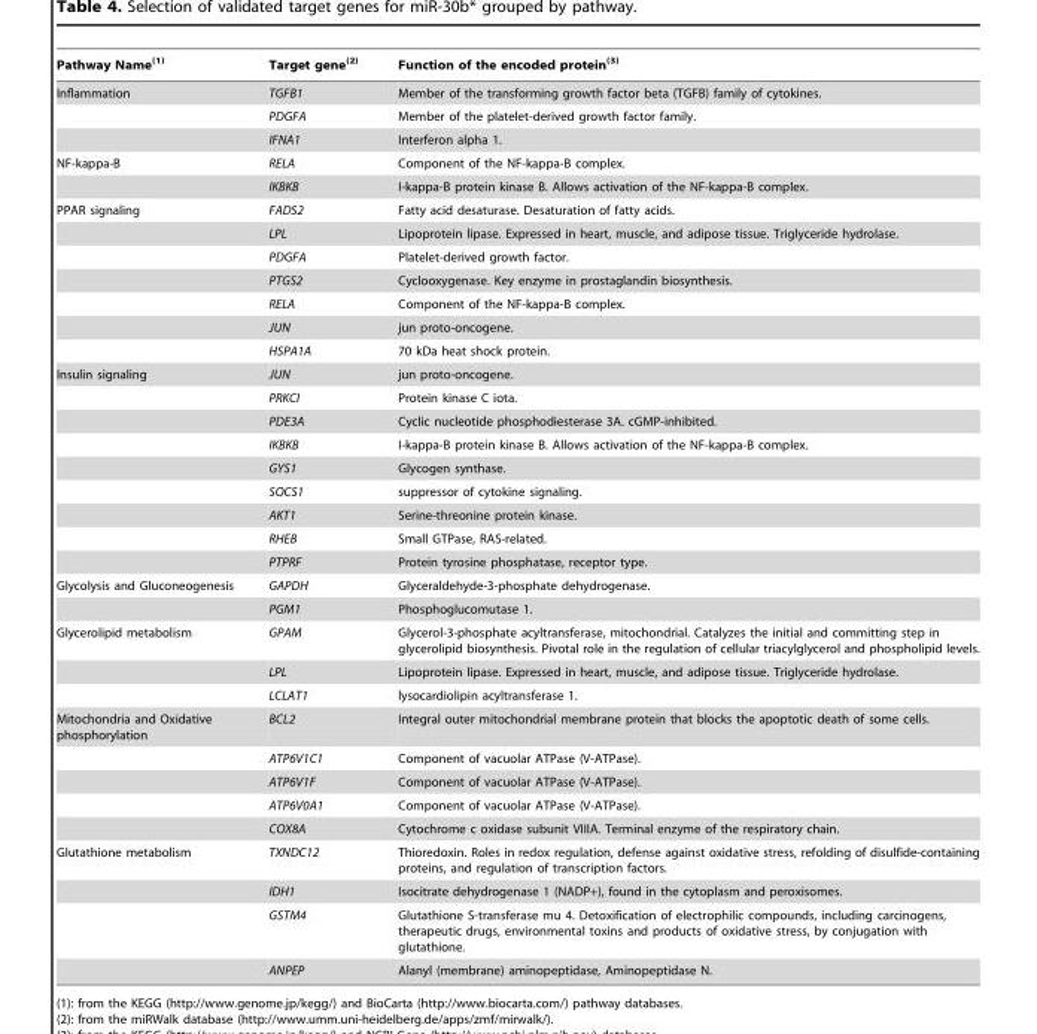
<table><thead><tr><td>Pathway Name(1)</td><td>Target gene(2)</td><td>Function of the encoded protein(3)</td></tr></thead><tbody><tr><td rowspan="3">Inflammation</td><td>TGFB1</td><td>Member of the transforming growth factor beta (TGFB) family of cytokines.</td></tr><tr><td>PDGFA</td><td>Member of the platelet-derived growth factor family.</td></tr><tr><td>IFNA1</td><td>Interferon alpha 1.</td></tr><tr><td rowspan="2">NF-kappa-B</td><td>RELA</td><td>Component of the NF-kappa-B complex.</td></tr><tr><td>IKBKB</td><td>I-kappa-B protein kinase B. Allows activation of the NF-kappa-B complex.</td></tr><tr><td rowspan="7">PPAR signaling</td><td>FADS2</td><td>Fatty acid desaturase. Desaturation of fatty acids.</td></tr><tr><td>LPL</td><td>Lipoprotein lipase. Expressed in heart, muscle, and adipose tissue. Triglyceride hydrolase.</td></tr><tr><td>PDGFA</td><td>Platelet-derived growth factor.</td></tr><tr><td>PTGS2</td><td>Cyclooxygenase. Key enzyme in prostaglandin biosynthesis.</td></tr><tr><td>RELA</td><td>Component of the NF-kappa-B complex.</td></tr><tr><td>JUN</td><td>jun proto-oncogene.</td></tr><tr><td>HSPA1A</td><td>70 kDa heat shock protein.</td></tr><tr><td rowspan="9">Insulin signaling</td><td>JUN</td><td>jun proto-oncogene.</td></tr><tr><td>PRKCI</td><td>Protein kinase C iota.</td></tr><tr><td>PDE3A</td><td>Cyclic nucleotide phosphodiesterase 3A. cGMP-inhibited.</td></tr><tr><td>IKBKB</td><td>I-kappa-B protein kinase B. Allows activation of the NF-kappa-B complex.</td></tr><tr><td>GYS1</td><td>Glycogen synthase.</td></tr><tr><td>SOCS1</td><td>suppressor of cytokine signaling.</td></tr><tr><td>AKT1</td><td>Serine-threonine protein kinase.</td></tr><tr><td>RHEB</td><td>Small GTPase, RAS-related.</td></tr><tr><td>PTPRF</td><td>Protein tyrosine phosphatase, receptor type.</td></tr><tr><td rowspan="2">Glycolysis and Gluconeogenesis</td><td>GAPDH</td><td>Glyceraldehyde-3-phosphate dehydrogenase.</td></tr><tr><td>PGM1</td><td>Phosphoglucomutase 1.</td></tr><tr><td rowspan="3">Glycerolipid metabolism</td><td>GPAM</td><td>Glycerol-3-phosphate acyltransferase, mitochondrial. Catalyzes the initial and committing step in glycerolipid biosynthesis. Pivotal role in the regulation of cellular triacylglycerol and phospholipid levels.</td></tr><tr><td>LPL</td><td>Lipoprotein lipase. Expressed in heart, muscle, and adipose tissue. Triglyceride hydrolase.</td></tr><tr><td>LCLAT1</td><td>lysocardiolipin acyltransferase 1.</td></tr><tr><td rowspan="5">Mitochondria and Oxidative phosphorylation</td><td>BCL2</td><td>Integral outer mitochondrial membrane protein that blocks the apoptotic death of some cells.</td></tr><tr><td>ATP6V1C1</td><td>Component of vacuolar ATPase (V-ATPase).</td></tr><tr><td>ATP6V1F</td><td>Component of vacuolar ATPase (V-ATPase).</td></tr><tr><td>ATP6V0A1</td><td>Component of vacuolar ATPase (V-ATPase).</td></tr><tr><td>COX8A</td><td>Cytochrome c oxidase subunit VIIIA. Terminal enzyme of the respiratory chain.</td></tr><tr><td rowspan="4">Glutathione metabolism</td><td>TXNDC12</td><td>Thioredoxin. Roles in redox regulation, defense against oxidative stress, refolding of disulfide-containing proteins, and regulation of transcription factors.</td></tr><tr><td>IDH1</td><td>Isocitrate dehydrogenase 1 (NADP+), found in the cytoplasm and peroxisomes.</td></tr><tr><td>GSTM4</td><td>Glutathione S-transferase mu 4. Detoxification of electrophilic compounds, including carcinogens, therapeutic drugs, environmental toxins and products of oxidative stress, by conjugation with glutathione.</td></tr><tr><td>ANPEP</td><td>Alanyl (membrane) aminopeptidase, Aminopeptidase N.</td></tr></tbody></table>